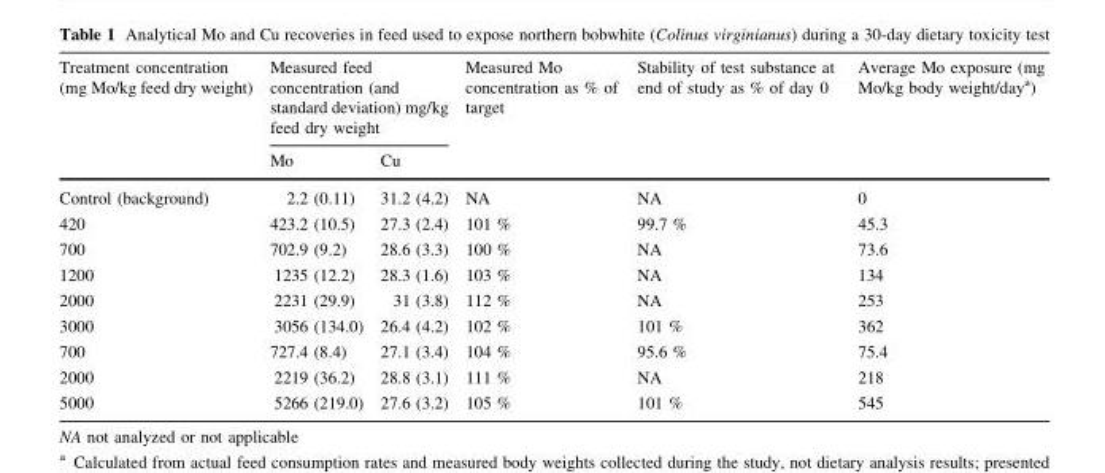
<table><thead><tr><td rowspan="2">Treatment concentration (mg Mo/kg feed dry weight)</td><td colspan="2">Measured feed concentration (and standard deviation) mg/kg feed dry weight</td><td rowspan="2">Measured Mo concentration as % of target</td><td rowspan="2">Stability of test substance at end of study as % of day 0</td><td rowspan="2">Average Mo exposure (mg Mo/kg body weight/day<sup>a</sup>)</td></tr><tr><td>Mo</td><td>Cu</td></tr></thead><tbody><tr><td>Control (background)</td><td>2.2 (0.11)</td><td>31.2 (4.2)</td><td>NA</td><td>NA</td><td>0</td></tr><tr><td>420</td><td>423.2 (10.5)</td><td>27.3 (2.4)</td><td>101 %</td><td>99.7 %</td><td>45.3</td></tr><tr><td>700</td><td>702.9 (9.2)</td><td>28.6 (3.3)</td><td>100 %</td><td>NA</td><td>73.6</td></tr><tr><td>1200</td><td>1235 (12.2)</td><td>28.3 (1.6)</td><td>103 %</td><td>NA</td><td>134</td></tr><tr><td>2000</td><td>2231 (29.9)</td><td>31 (3.8)</td><td>112 %</td><td>NA</td><td>253</td></tr><tr><td>3000</td><td>3056 (134.0)</td><td>26.4 (4.2)</td><td>102 %</td><td>101 %</td><td>362</td></tr><tr><td>700</td><td>727.4 (8.4)</td><td>27.1 (3.4)</td><td>104 %</td><td>95.6 %</td><td>75.4</td></tr><tr><td>2000</td><td>2219 (36.2)</td><td>28.8 (3.1)</td><td>111 %</td><td>NA</td><td>218</td></tr><tr><td>5000</td><td>5266 (219.0)</td><td>27.6 (3.2)</td><td>105 %</td><td>101 %</td><td>545</td></tr></tbody></table>